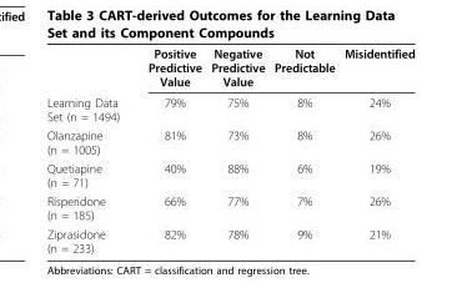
<table><thead><tr><td></td><td>Positive Predictive Value</td><td>Negative Predictive Value</td><td>Not Predictable</td><td>Misidentified</td></tr></thead><tbody><tr><td>Learning Data Set (n = 1494)</td><td>79%</td><td>75%</td><td>8%</td><td>24%</td></tr><tr><td>Olanzapine (n = 1005)</td><td>81%</td><td>73%</td><td>8%</td><td>26%</td></tr><tr><td>Quetiapine (n = 71)</td><td>40%</td><td>88%</td><td>6%</td><td>19%</td></tr><tr><td>Risperidone (n = 185)</td><td>66%</td><td>77%</td><td>7%</td><td>26%</td></tr><tr><td>Ziprasidone (n = 233)</td><td>82%</td><td>78%</td><td>9%</td><td>21%</td></tr></tbody></table>